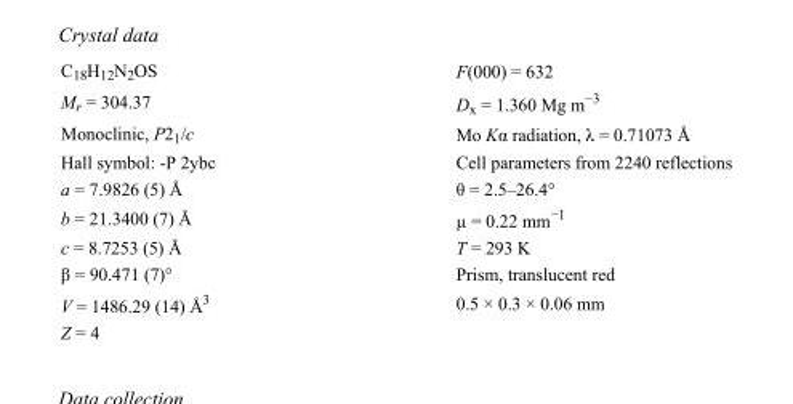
<table><tbody><tr><td>C<sub>18</sub>H<sub>12</sub>N<sub>2</sub>OS</td><td>F(000) = 632</td></tr><tr><td>M<sub>r</sub> = 304.37</td><td>D<sub>x</sub> = 1.360 Mg m<sup>−3</sup></td></tr><tr><td>Monoclinic, P2<sub>1</sub>/c</td><td>Mo Kα radiation, λ = 0.71073 Å</td></tr><tr><td>Hall symbol: -P 2ybc</td><td>Cell parameters from 2240 reflections</td></tr><tr><td>a = 7.9826 (5) Å</td><td>θ = 2.5–26.4°</td></tr><tr><td>b = 21.3400 (7) Å</td><td>µ = 0.22 mm<sup>−1</sup></td></tr><tr><td>c = 8.7253 (5) Å</td><td>T = 293 K</td></tr><tr><td>β = 90.471 (7)°</td><td>Prism, translucent red</td></tr><tr><td>V = 1486.29 (14) Å<sup>3</sup></td><td>0.5 × 0.3 × 0.06 mm</td></tr><tr><td>Z = 4</td><td></td></tr></tbody></table>